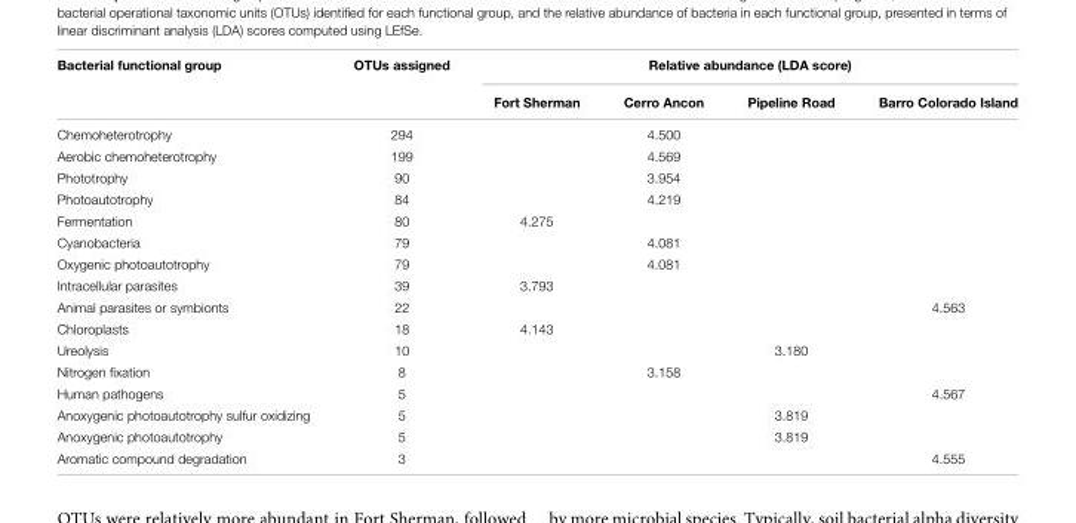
<table><thead><tr><td rowspan="2">Bacterial functional group</td><td rowspan="2">OTUs assigned</td><td colspan="4">Relative abundance (LDA score)</td></tr><tr><td>Fort Sherman</td><td>Cerro Ancon</td><td>Pipeline Road</td><td>Barro Colorado Island</td></tr></thead><tbody><tr><td>Chemoheterotrophy</td><td>294</td><td></td><td>4.500</td><td></td><td></td></tr><tr><td>Aerobic chemoheterotrophy</td><td>199</td><td></td><td>4.569</td><td></td><td></td></tr><tr><td>Phototrophy</td><td>90</td><td></td><td>3.954</td><td></td><td></td></tr><tr><td>Photoautotrophy</td><td>84</td><td></td><td>4.219</td><td></td><td></td></tr><tr><td>Fermentation</td><td>80</td><td>4.275</td><td></td><td></td><td></td></tr><tr><td>Cyanobacteria</td><td>79</td><td></td><td>4.081</td><td></td><td></td></tr><tr><td>Oxygenic photoautotrophy</td><td>79</td><td></td><td>4.081</td><td></td><td></td></tr><tr><td>Intracellular parasites</td><td>39</td><td>3.793</td><td></td><td></td><td></td></tr><tr><td>Animal parasites or symbionts</td><td>22</td><td></td><td></td><td></td><td>4.563</td></tr><tr><td>Chloroplasts</td><td>18</td><td>4.143</td><td></td><td></td><td></td></tr><tr><td>Ureolysis</td><td>10</td><td></td><td></td><td>3.180</td><td></td></tr><tr><td>Nitrogen fixation</td><td>8</td><td></td><td>3.158</td><td></td><td></td></tr><tr><td>Human pathogens</td><td>5</td><td></td><td></td><td></td><td>4.567</td></tr><tr><td>Anoxygenic photoautotrophy sulfur oxidizing</td><td>5</td><td></td><td></td><td>3.819</td><td></td></tr><tr><td>Anoxygenic photoautotrophy</td><td>5</td><td></td><td></td><td>3.819</td><td></td></tr><tr><td>Aromatic compound degradation</td><td>3</td><td></td><td></td><td></td><td>4.555</td></tr></tbody></table>